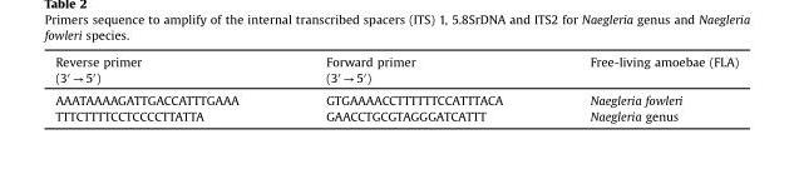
<table><thead><tr><td>Reverse primer (3′ → 5′)</td><td>Forward primer (3′ → 5′)</td><td>Free-living amoebae (FLA)</td></tr></thead><tbody><tr><td>AAATAAAAGATTGACCATTTGAAA</td><td>GTGAAAACCTTTTTTCCATTTACA</td><td>Naegleria fowleri</td></tr><tr><td>TTTCTTTTCCTCCCCTTATTA</td><td>GAACCTGCGTAGGGATCATTT</td><td>Naegleria genus</td></tr></tbody></table>